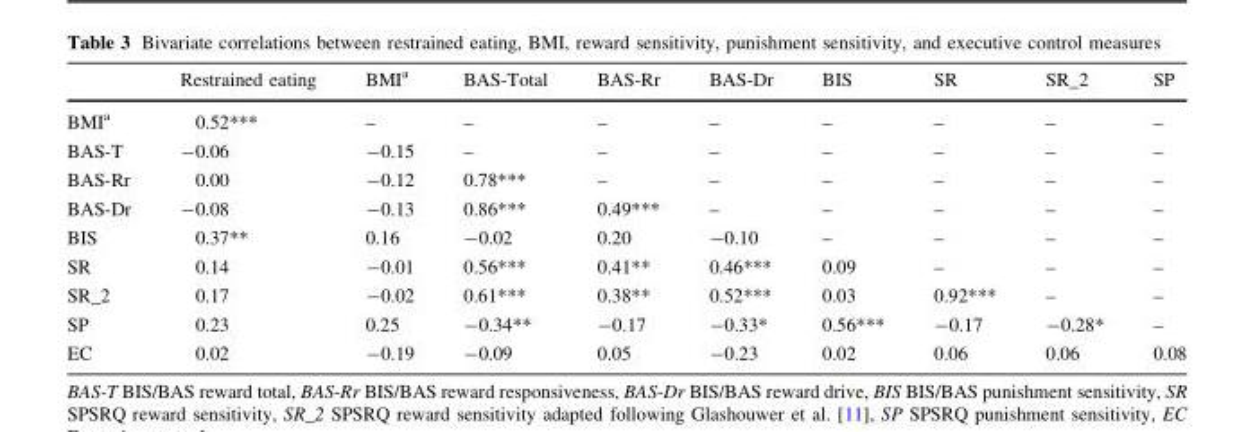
<table><thead><tr><td></td><td>Restrained eating</td><td>BMI<sup>a</sup></td><td>BAS-Total</td><td>BAS-Rr</td><td>BAS-Dr</td><td>BIS</td><td>SR</td><td>SR_2</td><td>SP</td></tr></thead><tbody><tr><td>BMI<sup>a</sup></td><td>0.52***</td><td>–</td><td>–</td><td>–</td><td>–</td><td>–</td><td>–</td><td>–</td><td>–</td></tr><tr><td>BAS-T</td><td>-0.06</td><td>-0.15</td><td>–</td><td>–</td><td>–</td><td>–</td><td>–</td><td>–</td><td>–</td></tr><tr><td>BAS-Rr</td><td>0.00</td><td>-0.12</td><td>0.78***</td><td>–</td><td>–</td><td>–</td><td>–</td><td>–</td><td>–</td></tr><tr><td>BAS-Dr</td><td>-0.08</td><td>-0.13</td><td>0.86***</td><td>0.49***</td><td>–</td><td>–</td><td>–</td><td>–</td><td>–</td></tr><tr><td>BIS</td><td>0.37**</td><td>0.16</td><td>-0.02</td><td>0.20</td><td>-0.10</td><td>–</td><td>–</td><td>–</td><td>–</td></tr><tr><td>SR</td><td>0.14</td><td>-0.01</td><td>0.56***</td><td>0.41**</td><td>0.46***</td><td>0.09</td><td>–</td><td>–</td><td>–</td></tr><tr><td>SR_2</td><td>0.17</td><td>-0.02</td><td>0.61***</td><td>0.38**</td><td>0.52***</td><td>0.03</td><td>0.92***</td><td>–</td><td>–</td></tr><tr><td>SP</td><td>0.23</td><td>0.25</td><td>-0.34**</td><td>-0.17</td><td>-0.33*</td><td>0.56***</td><td>-0.17</td><td>-0.28*</td><td>–</td></tr><tr><td>EC</td><td>0.02</td><td>-0.19</td><td>-0.09</td><td>0.05</td><td>-0.23</td><td>0.02</td><td>0.06</td><td>0.06</td><td>0.08</td></tr></tbody></table>